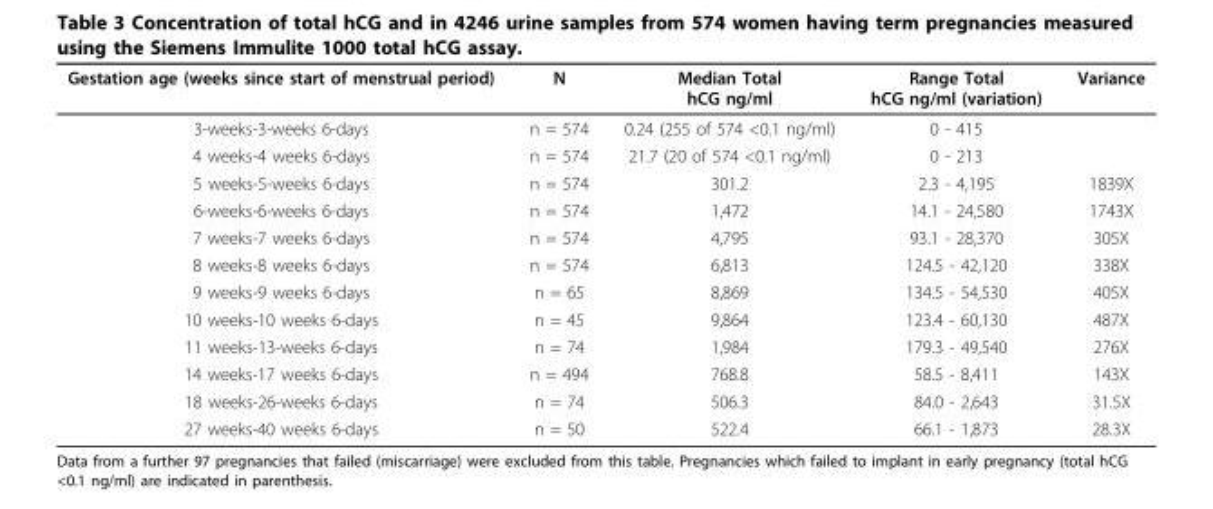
<table><thead><tr><td>Gestation age (weeks since start of menstrual period)</td><td>N</td><td>Median Total hCG ng/ml</td><td>Range Total hCG ng/ml (variation)</td><td>Variance</td></tr></thead><tbody><tr><td>3-weeks-3-weeks 6-days</td><td>n = 574</td><td>0.24 (255 of 574 &lt;0.1 ng/ml)</td><td>0 - 415</td><td></td></tr><tr><td>4 weeks-4 weeks 6-days</td><td>n = 574</td><td>21.7 (20 of 574 &lt;0.1 ng/ml)</td><td>0 - 213</td><td></td></tr><tr><td>5 weeks-5-weeks 6-days</td><td>n = 574</td><td>301.2</td><td>2.3 - 4,195</td><td>1839X</td></tr><tr><td>6-weeks-6-weeks 6-days</td><td>n = 574</td><td>1,472</td><td>14.1 - 24,580</td><td>1743X</td></tr><tr><td>7 weeks-7 weeks 6-days</td><td>n = 574</td><td>4,795</td><td>93.1 - 28,370</td><td>305X</td></tr><tr><td>8 weeks-8 weeks 6-days</td><td>n = 574</td><td>6,813</td><td>124.5 - 42,120</td><td>338X</td></tr><tr><td>9 weeks-9 weeks 6-days</td><td>n = 65</td><td>8,869</td><td>134.5 - 54,530</td><td>405X</td></tr><tr><td>10 weeks-10 weeks 6-days</td><td>n = 45</td><td>9,864</td><td>123.4 - 60,130</td><td>487X</td></tr><tr><td>11 weeks-13-weeks 6-days</td><td>n = 74</td><td>1,984</td><td>179.3 - 49,540</td><td>276X</td></tr><tr><td>14 weeks-17 weeks 6-days</td><td>n = 494</td><td>768.8</td><td>58.5 - 8,411</td><td>143X</td></tr><tr><td>18 weeks-26-weeks 6-days</td><td>n = 74</td><td>506.3</td><td>84.0 - 2,643</td><td>31.5X</td></tr><tr><td>27 weeks-40 weeks 6-days</td><td>n = 50</td><td>522.4</td><td>66.1 - 1,873</td><td>28.3X</td></tr></tbody></table>